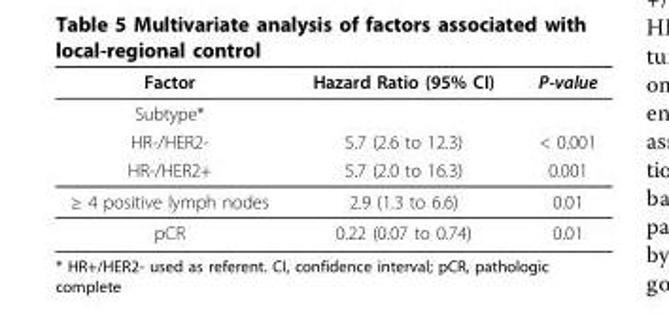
<table><thead><tr><td>Factor</td><td>Hazard Ratio (95% CI)</td><td>P-value</td></tr></thead><tbody><tr><td colspan="3">Subtype*</td></tr><tr><td>HR-/HER2-</td><td>5.7 (2.6 to 12.3)</td><td>&lt; 0.001</td></tr><tr><td>HR-/HER2+</td><td>5.7 (2.0 to 16.3)</td><td>0.001</td></tr><tr><td>≥ 4 positive lymph nodes</td><td>2.9 (1.3 to 6.6)</td><td>0.01</td></tr><tr><td>pCR</td><td>0.22 (0.07 to 0.74)</td><td>0.01</td></tr></tbody></table>